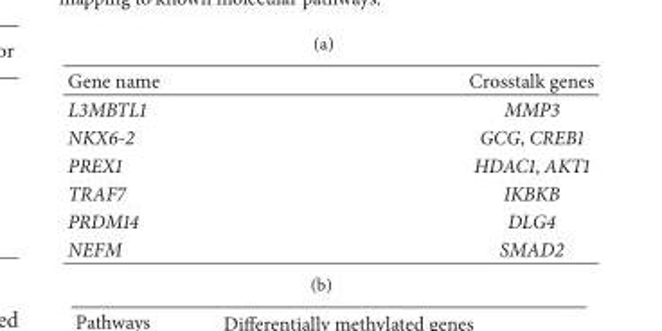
<table><thead><tr><td>Gene name</td><td>Crosstalk genes</td></tr></thead><tbody><tr><td>L3MBTL1</td><td>MMP3</td></tr><tr><td>NKX6-2</td><td>GCG, CREB1</td></tr><tr><td>PREX1</td><td>HDAC1, AKT1</td></tr><tr><td>TRAF7</td><td>IKBKB</td></tr><tr><td>PRDM14</td><td>DLG4</td></tr><tr><td>NEFM</td><td>SMAD2</td></tr></tbody></table>